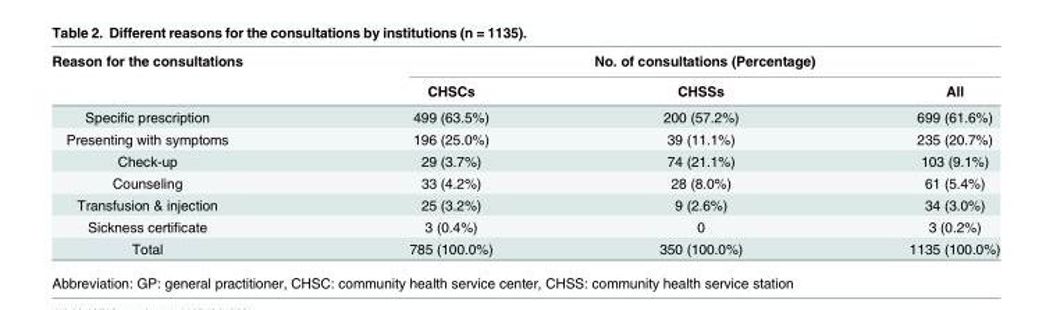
<table><thead><tr><td rowspan="2">Reason for the consultations</td><td colspan="3">No. of consultations (Percentage)</td></tr><tr><td>CHSCs</td><td>CHSSs</td><td>All</td></tr></thead><tbody><tr><td>Specific prescription</td><td>499 (63.5%)</td><td>200 (57.2%)</td><td>699 (61.6%)</td></tr><tr><td>Presenting with symptoms</td><td>196 (25.0%)</td><td>39 (11.1%)</td><td>235 (20.7%)</td></tr><tr><td>Check-up</td><td>29 (3.7%)</td><td>74 (21.1%)</td><td>103 (9.1%)</td></tr><tr><td>Counseling</td><td>33 (4.2%)</td><td>28 (8.0%)</td><td>61 (5.4%)</td></tr><tr><td>Transfusion &amp; injection</td><td>25 (3.2%)</td><td>9 (2.6%)</td><td>34 (3.0%)</td></tr><tr><td>Sickness certificate</td><td>3 (0.4%)</td><td>0</td><td>3 (0.2%)</td></tr><tr><td>Total</td><td>785 (100.0%)</td><td>350 (100.0%)</td><td>1135 (100.0%)</td></tr></tbody></table>